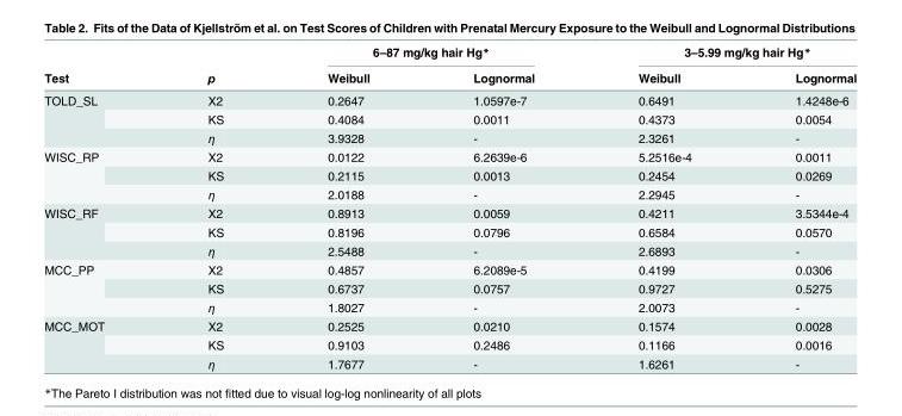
<table><thead><tr><td rowspan="2">Test</td><td rowspan="2">p</td><td colspan="2">6–87 mg/kg hair Hg*</td><td colspan="2">3–5.99 mg/kg hair Hg*</td></tr><tr><td>Weibull</td><td>Lognormal</td><td>Weibull</td><td>Lognormal</td></tr></thead><tbody><tr><td rowspan="3">TOLD_SL</td><td>X2</td><td>0.2647</td><td>1.0597e-7</td><td>0.6491</td><td>1.4248e-6</td></tr><tr><td>KS</td><td>0.4084</td><td>0.0011</td><td>0.4373</td><td>0.0054</td></tr><tr><td>η</td><td>3.9328</td><td>-</td><td>2.3261</td><td>-</td></tr><tr><td rowspan="3">WISC_RP</td><td>X2</td><td>0.0122</td><td>6.2639e-6</td><td>5.2516e-4</td><td>0.0011</td></tr><tr><td>KS</td><td>0.2115</td><td>0.0013</td><td>0.2454</td><td>0.0269</td></tr><tr><td>η</td><td>2.0188</td><td>-</td><td>2.2945</td><td>-</td></tr><tr><td rowspan="3">WISC_RF</td><td>X2</td><td>0.8913</td><td>0.0059</td><td>0.4211</td><td>3.5344e-4</td></tr><tr><td>KS</td><td>0.8196</td><td>0.0796</td><td>0.6584</td><td>0.0570</td></tr><tr><td>η</td><td>2.5488</td><td>-</td><td>2.6893</td><td>-</td></tr><tr><td rowspan="3">MCC_PP</td><td>X2</td><td>0.4857</td><td>6.2089e-5</td><td>0.4199</td><td>0.0306</td></tr><tr><td>KS</td><td>0.6737</td><td>0.0757</td><td>0.9727</td><td>0.5275</td></tr><tr><td>η</td><td>1.8027</td><td>-</td><td>2.0073</td><td>-</td></tr><tr><td rowspan="3">MCC_MOT</td><td>X2</td><td>0.2525</td><td>0.0210</td><td>0.1574</td><td>0.0028</td></tr><tr><td>KS</td><td>0.9103</td><td>0.2486</td><td>0.1166</td><td>0.0016</td></tr><tr><td>η</td><td>1.7677</td><td>-</td><td>1.6261</td><td>-</td></tr></tbody></table>